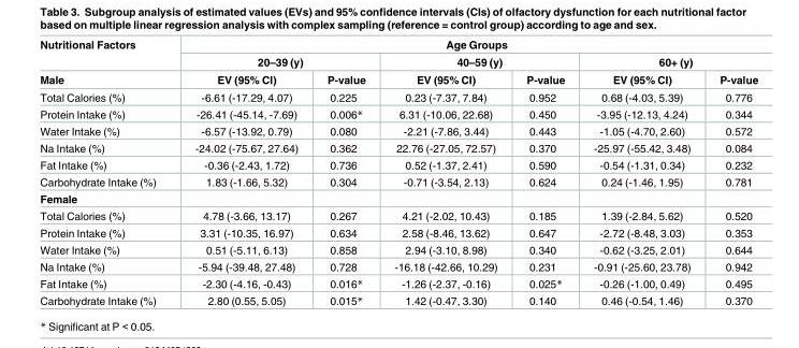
<table><thead><tr><td rowspan="3">Nutritional Factors Male</td><td colspan="6">Age Groups</td></tr><tr><td colspan="2">20–39 (y)</td><td colspan="2">40–59 (y)</td><td colspan="2">60+ (y)</td></tr><tr><td>EV (95% CI)</td><td>P-value</td><td>EV (95% CI)</td><td>P-value</td><td>EV (95% CI)</td><td>P-value</td></tr></thead><tbody><tr><td>Total Calories (%)</td><td>-6.61 (-17.29, 4.07)</td><td>0.225</td><td>0.23 (-7.37, 7.84)</td><td>0.952</td><td>0.68 (-4.03, 5.39)</td><td>0.776</td></tr><tr><td>Protein Intake (%)</td><td>-26.41 (-45.14, -7.69)</td><td>0.006*</td><td>6.31 (-10.06, 22.68)</td><td>0.450</td><td>-3.95 (-12.13, 4.24)</td><td>0.344</td></tr><tr><td>Water Intake (%)</td><td>-6.57 (-13.92, 0.79)</td><td>0.080</td><td>-2.21 (-7.86, 3.44)</td><td>0.443</td><td>-1.05 (-4.70, 2.60)</td><td>0.572</td></tr><tr><td>Na Intake (%)</td><td>-24.02 (-75.67, 27.64)</td><td>0.362</td><td>22.76 (-27.05, 72.57)</td><td>0.370</td><td>-25.97 (-55.42, 3.48)</td><td>0.084</td></tr><tr><td>Fat Intake (%)</td><td>-0.36 (-2.43, 1.72)</td><td>0.736</td><td>0.52 (-1.37, 2.41)</td><td>0.590</td><td>-0.54 (-1.31, 0.34)</td><td>0.232</td></tr><tr><td>Carbohydrate Intake (%)</td><td>1.83 (-1.66, 5.32)</td><td>0.304</td><td>-0.71 (-3.54, 2.13)</td><td>0.624</td><td>0.24 (-1.46, 1.95)</td><td>0.781</td></tr><tr><td colspan="7">Female</td></tr><tr><td>Total Calories (%)</td><td>4.78 (-3.66, 13.17)</td><td>0.267</td><td>4.21 (-2.02, 10.43)</td><td>0.185</td><td>1.39 (-2.84, 5.62)</td><td>0.520</td></tr><tr><td>Protein Intake (%)</td><td>3.31 (-10.35, 16.97)</td><td>0.634</td><td>2.58 (-8.46, 13.62)</td><td>0.647</td><td>-2.72 (-8.48, 3.03)</td><td>0.353</td></tr><tr><td>Water Intake (%)</td><td>0.51 (-5.11, 6.13)</td><td>0.858</td><td>2.94 (-3.10, 8.98)</td><td>0.340</td><td>-0.62 (-3.25, 2.01)</td><td>0.644</td></tr><tr><td>Na Intake (%)</td><td>-5.94 (-39.48, 27.48)</td><td>0.728</td><td>-16.18 (-42.66, 10.29)</td><td>0.231</td><td>-0.91 (-25.60, 23.78)</td><td>0.942</td></tr><tr><td>Fat Intake (%)</td><td>-2.30 (-4.16, -0.43)</td><td>0.016*</td><td>-1.26 (-2.37, -0.16)</td><td>0.025*</td><td>-0.26 (-1.00, 0.49)</td><td>0.495</td></tr><tr><td>Carbohydrate Intake (%)</td><td>2.80 (0.55, 5.05)</td><td>0.015*</td><td>1.42 (-0.47, 3.30)</td><td>0.140</td><td>0.46 (-0.54, 1.46)</td><td>0.370</td></tr></tbody></table>